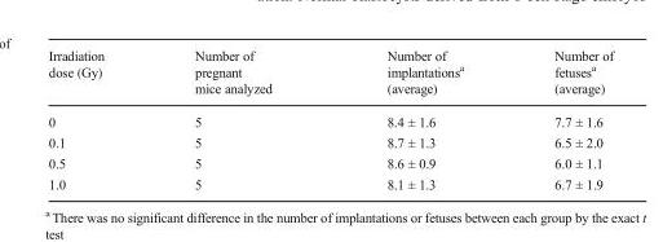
<table><thead><tr><td>Irradiation dose (Gy)</td><td>Number of pregnant mice analyzed</td><td>Number of implantations<sup>a</sup> (average)</td><td>Number of fetuses<sup>a</sup> (average)</td></tr></thead><tbody><tr><td>0</td><td>5</td><td>8.4 ± 1.6</td><td>7.7 ± 1.6</td></tr><tr><td>0.1</td><td>5</td><td>8.7 ± 1.3</td><td>6.5 ± 2.0</td></tr><tr><td>0.5</td><td>5</td><td>8.6 ± 0.9</td><td>6.0 ± 1.1</td></tr><tr><td>1.0</td><td>5</td><td>8.1 ± 1.3</td><td>6.7 ± 1.9</td></tr></tbody></table>